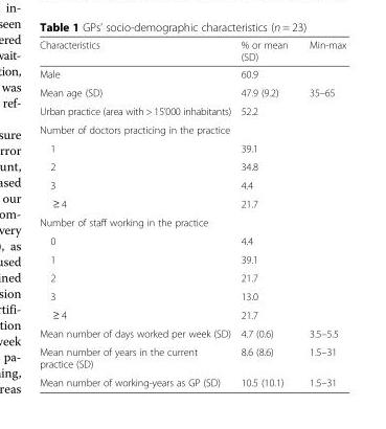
<table><thead><tr><td>Characteristics</td><td>% or mean (SD)</td><td>Min-max</td></tr></thead><tbody><tr><td>Male</td><td>60.9</td><td></td></tr><tr><td>Mean age (SD)</td><td>47.9 (9.2)</td><td>35–65</td></tr><tr><td>Urban practice (area with &gt; 15’000 inhabitants)</td><td>52.2</td><td></td></tr><tr><td colspan="3">Number of doctors practicing in the practice</td></tr><tr><td>1</td><td>39.1</td><td></td></tr><tr><td>2</td><td>34.8</td><td></td></tr><tr><td>3</td><td>4.4</td><td></td></tr><tr><td>≥ 4</td><td>21.7</td><td></td></tr><tr><td colspan="3">Number of staff working in the practice</td></tr><tr><td>0</td><td>4.4</td><td></td></tr><tr><td>1</td><td>39.1</td><td></td></tr><tr><td>2</td><td>21.7</td><td></td></tr><tr><td>3</td><td>13.0</td><td></td></tr><tr><td>≥ 4</td><td>21.7</td><td></td></tr><tr><td>Mean number of days worked per week (SD)</td><td>4.7 (0.6)</td><td>3.5–5.5</td></tr><tr><td>Mean number of years in the current practice (SD)</td><td>8.6 (8.6)</td><td>1.5–31</td></tr><tr><td>Mean number of working-years as GP (SD)</td><td>10.5 (10.1)</td><td>1.5–31</td></tr></tbody></table>